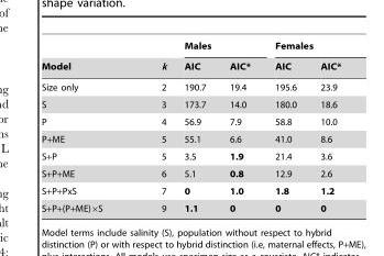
<table><thead><tr><td rowspan="2">Model</td><td rowspan="2">k</td><td colspan="2">Males</td><td colspan="2">Females</td></tr><tr><td>AIC</td><td>AIC*</td><td>AIC</td><td>AIC*</td></tr></thead><tbody><tr><td>Size only</td><td>2</td><td>190.7</td><td>19.4</td><td>195.6</td><td>23.9</td></tr><tr><td>S</td><td>3</td><td>173.7</td><td>14.0</td><td>180.0</td><td>18.6</td></tr><tr><td>P</td><td>4</td><td>56.9</td><td>7.9</td><td>58.8</td><td>10.0</td></tr><tr><td>P+ME</td><td>5</td><td>55.1</td><td>6.6</td><td>41.0</td><td>8.6</td></tr><tr><td>S+P</td><td>5</td><td>3.5</td><td>1.9</td><td>21.4</td><td>3.6</td></tr><tr><td>S+P+ME</td><td>6</td><td>5.1</td><td>0.8</td><td>12.9</td><td>2.6</td></tr><tr><td>S+P+PxS</td><td>7</td><td>0</td><td>1.0</td><td>1.8</td><td>1.2</td></tr><tr><td>S+P+(P+ME)×S</td><td>9</td><td>1.1</td><td>0</td><td>0</td><td>0</td></tr></tbody></table>